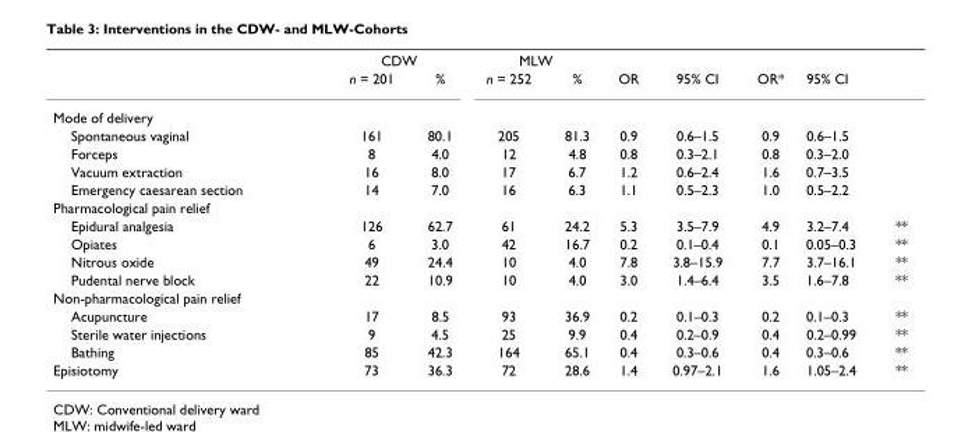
<table><thead><tr><td rowspan="2"></td><td colspan="2">CDW</td><td colspan="2">MLW</td><td rowspan="2">OR</td><td rowspan="2">95% CI</td><td rowspan="2">OR*</td><td rowspan="2">95% CI</td><td rowspan="2"></td></tr><tr><td>n = 201</td><td>%</td><td>n = 252</td><td>%</td></tr></thead><tbody><tr><td colspan="10">Mode of delivery</td></tr><tr><td>Spontaneous vaginal</td><td>161</td><td>80.1</td><td>205</td><td>81.3</td><td>0.9</td><td>0.6–1.5</td><td>0.9</td><td>0.6–1.5</td><td></td></tr><tr><td>Forceps</td><td>8</td><td>4.0</td><td>12</td><td>4.8</td><td>0.8</td><td>0.3–2.1</td><td>0.8</td><td>0.3–2.0</td><td></td></tr><tr><td>Vacuum extraction</td><td>16</td><td>8.0</td><td>17</td><td>6.7</td><td>1.2</td><td>0.6–2.4</td><td>1.6</td><td>0.7–3.5</td><td></td></tr><tr><td>Emergency caesarean section</td><td>14</td><td>7.0</td><td>16</td><td>6.3</td><td>1.1</td><td>0.5–2.3</td><td>1.0</td><td>0.5–2.2</td><td></td></tr><tr><td colspan="10">Pharmacological pain relief</td></tr><tr><td>Epidural analgesia</td><td>126</td><td>62.7</td><td>61</td><td>24.2</td><td>5.3</td><td>3.5–7.9</td><td>4.9</td><td>3.2–7.4</td><td>**</td></tr><tr><td>Opiates</td><td>6</td><td>3.0</td><td>42</td><td>16.7</td><td>0.2</td><td>0.1–0.4</td><td>0.1</td><td>0.05–0.3</td><td>**</td></tr><tr><td>Nitrous oxide</td><td>49</td><td>24.4</td><td>10</td><td>4.0</td><td>7.8</td><td>3.8–15.9</td><td>7.7</td><td>3.7–16.1</td><td>**</td></tr><tr><td>Pudental nerve block</td><td>22</td><td>10.9</td><td>10</td><td>4.0</td><td>3.0</td><td>1.4–6.4</td><td>3.5</td><td>1.6–7.8</td><td>**</td></tr><tr><td colspan="10">Non-pharmacological pain relief</td></tr><tr><td>Acupuncture</td><td>17</td><td>8.5</td><td>93</td><td>36.9</td><td>0.2</td><td>0.1–0.3</td><td>0.2</td><td>0.1–0.3</td><td>**</td></tr><tr><td>Sterile water injections</td><td>9</td><td>4.5</td><td>25</td><td>9.9</td><td>0.4</td><td>0.2–0.9</td><td>0.4</td><td>0.2–0.99</td><td>**</td></tr><tr><td>Bathing</td><td>85</td><td>42.3</td><td>164</td><td>65.1</td><td>0.4</td><td>0.3–0.6</td><td>0.4</td><td>0.3–0.6</td><td>**</td></tr><tr><td>Episiotomy</td><td>73</td><td>36.3</td><td>72</td><td>28.6</td><td>1.4</td><td>0.97–2.1</td><td>1.6</td><td>1.05–2.4</td><td>**</td></tr></tbody></table>